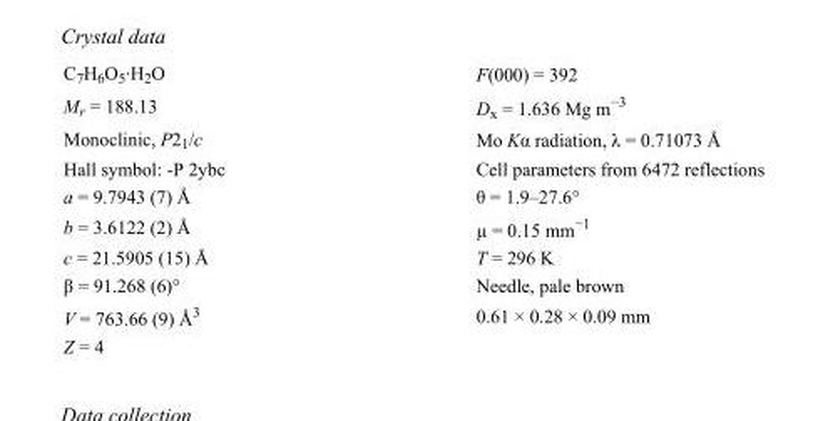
<table><tbody><tr><td>C<sub>7</sub>H<sub>6</sub>O<sub>5</sub>·H<sub>2</sub>O</td><td>F(000) = 392</td></tr><tr><td>M<sub>r</sub> = 188.13</td><td>D<sub>x</sub> = 1.636 Mg m<sup>−3</sup></td></tr><tr><td>Monoclinic, P2<sub>1</sub>/c</td><td>Mo Kα radiation, λ = 0.71073 Å</td></tr><tr><td>Hall symbol: -P 2ybc</td><td>Cell parameters from 6472 reflections</td></tr><tr><td>a = 9.7943 (7) Å</td><td>θ = 1.9–27.6°</td></tr><tr><td>b = 3.6122 (2) Å</td><td>µ = 0.15 mm<sup>−1</sup></td></tr><tr><td>c = 21.5905 (15) Å</td><td>T = 296 K</td></tr><tr><td>β = 91.268 (6)°</td><td>Needle, pale brown</td></tr><tr><td>V = 763.66 (9) Å<sup>3</sup></td><td>0.61 × 0.28 × 0.09 mm</td></tr><tr><td>Z = 4</td><td></td></tr></tbody></table>